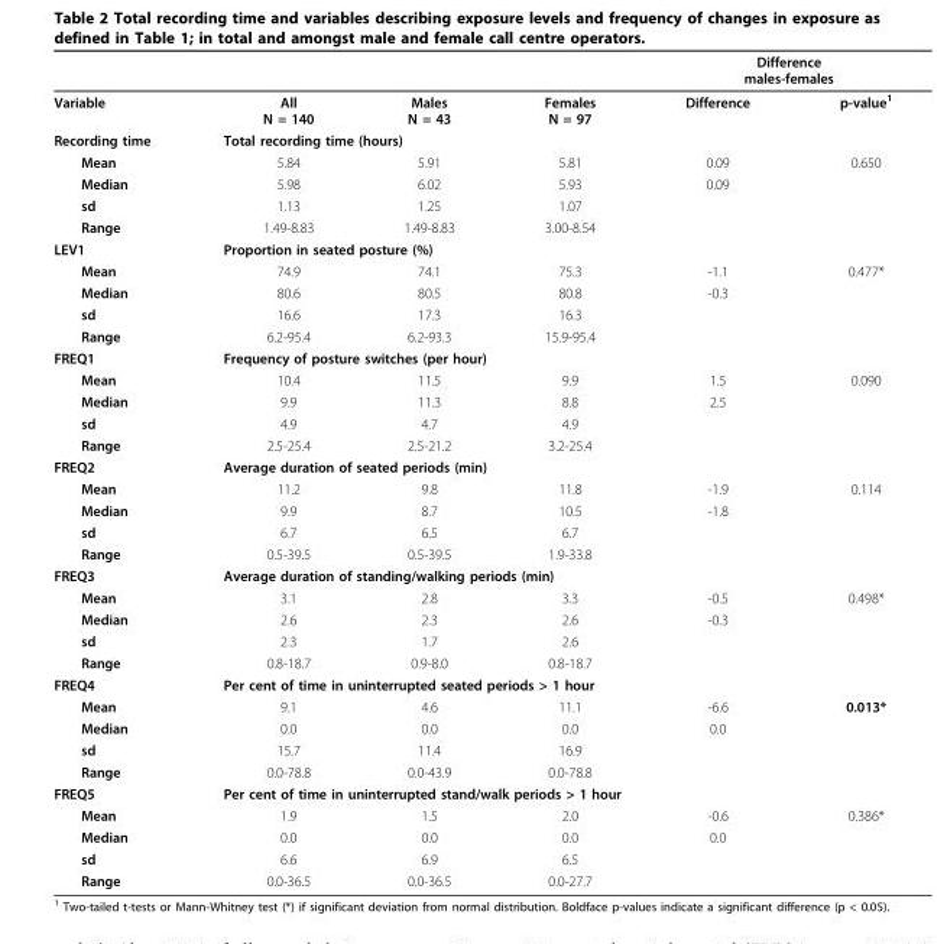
<table><thead><tr><td rowspan="2">Variable</td><td rowspan="2">All N = 140</td><td rowspan="2">Males N = 43</td><td rowspan="2">Females N = 97</td><td colspan="2">Difference males-females</td></tr><tr><td>Difference</td><td>p-value<sup>1</sup></td></tr></thead><tbody><tr><td>Recording time</td><td colspan="5">Total recording time (hours)</td></tr><tr><td>Mean</td><td>5.84</td><td>5.91</td><td>5.81</td><td>0.09</td><td>0.650</td></tr><tr><td>Median</td><td>5.98</td><td>6.02</td><td>5.93</td><td>0.09</td><td></td></tr><tr><td>sd</td><td>1.13</td><td>1.25</td><td>1.07</td><td></td><td></td></tr><tr><td>Range</td><td>1.49-8.83</td><td>1.49-8.83</td><td>3.00-8.54</td><td></td><td></td></tr><tr><td>LEV1</td><td colspan="5">Proportion in seated posture (%)</td></tr><tr><td>Mean</td><td>74.9</td><td>74.1</td><td>75.3</td><td>-1.1</td><td>0.477*</td></tr><tr><td>Median</td><td>80.6</td><td>80.5</td><td>80.8</td><td>-0.3</td><td></td></tr><tr><td>sd</td><td>16.6</td><td>17.3</td><td>16.3</td><td></td><td></td></tr><tr><td>Range</td><td>6.2-95.4</td><td>6.2-93.3</td><td>15.9-95.4</td><td></td><td></td></tr><tr><td>FREQ1</td><td colspan="5">Frequency of posture switches (per hour)</td></tr><tr><td>Mean</td><td>10.4</td><td>11.5</td><td>9.9</td><td>1.5</td><td>0.090</td></tr><tr><td>Median</td><td>9.9</td><td>11.3</td><td>8.8</td><td>2.5</td><td></td></tr><tr><td>sd</td><td>4.9</td><td>4.7</td><td>4.9</td><td></td><td></td></tr><tr><td>Range</td><td>2.5-25.4</td><td>2.5-21.2</td><td>3.2-25.4</td><td></td><td></td></tr><tr><td>FREQ2</td><td colspan="5">Average duration of seated periods (min)</td></tr><tr><td>Mean</td><td>11.2</td><td>9.8</td><td>11.8</td><td>-1.9</td><td>0.114</td></tr><tr><td>Median</td><td>9.9</td><td>8.7</td><td>10.5</td><td>-1.8</td><td></td></tr><tr><td>sd</td><td>6.7</td><td>6.5</td><td>6.7</td><td></td><td></td></tr><tr><td>Range</td><td>0.5-39.5</td><td>0.5-39.5</td><td>1.9-33.8</td><td></td><td></td></tr><tr><td>FREQ3</td><td colspan="5">Average duration of standing/walking periods (min)</td></tr><tr><td>Mean</td><td>3.1</td><td>2.8</td><td>3.3</td><td>-0.5</td><td>0.498*</td></tr><tr><td>Median</td><td>2.6</td><td>2.3</td><td>2.6</td><td>-0.3</td><td></td></tr><tr><td>sd</td><td>2.3</td><td>1.7</td><td>2.6</td><td></td><td></td></tr><tr><td>Range</td><td>0.8-18.7</td><td>0.9-8.0</td><td>0.8-18.7</td><td></td><td></td></tr><tr><td>FREQ4</td><td colspan="5">Per cent of time in uninterrupted seated periods &gt; 1 hour</td></tr><tr><td>Mean</td><td>9.1</td><td>4.6</td><td>11.1</td><td>-6.6</td><td>0.013*</td></tr><tr><td>Median</td><td>0.0</td><td>0.0</td><td>0.0</td><td>0.0</td><td></td></tr><tr><td>sd</td><td>15.7</td><td>11.4</td><td>16.9</td><td></td><td></td></tr><tr><td>Range</td><td>0.0-78.8</td><td>0.0-43.9</td><td>0.0-78.8</td><td></td><td></td></tr><tr><td>FREQ5</td><td colspan="5">Per cent of time in uninterrupted stand/walk periods &gt; 1 hour</td></tr><tr><td>Mean</td><td>1.9</td><td>1.5</td><td>2.0</td><td>-0.6</td><td>0.386*</td></tr><tr><td>Median</td><td>0.0</td><td>0.0</td><td>0.0</td><td>0.0</td><td></td></tr><tr><td>sd</td><td>6.6</td><td>6.9</td><td>6.5</td><td></td><td></td></tr><tr><td>Range</td><td>0.0-36.5</td><td>0.0-36.5</td><td>0.0-27.7</td><td></td><td></td></tr></tbody></table>